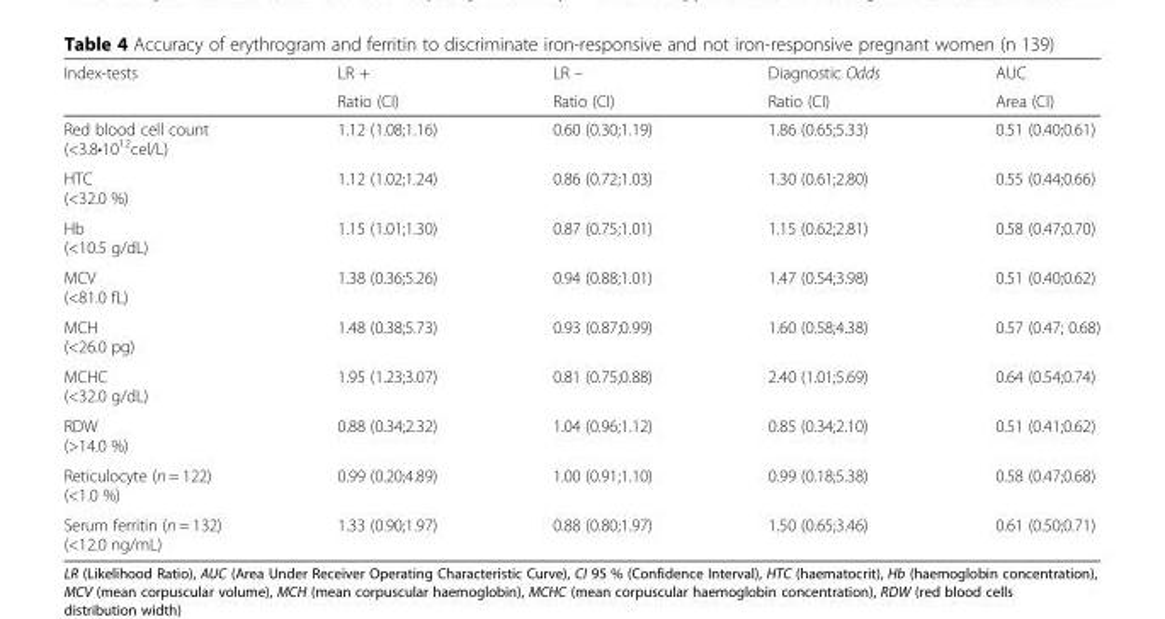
<table><thead><tr><td rowspan="2">Index-tests</td><td rowspan="2">LR + Ratio (CI)</td><td rowspan="2">LR – Ratio (CI)</td><td rowspan="2">Diagnostic Odds Ratio (CI)</td><td rowspan="2">AUC Area (CI)</td></tr><tr></tr></thead><tbody><tr><td>Red blood cell count (&lt;3.8•10<sup>12</sup>cel/L)</td><td>1.12 (1.08;1.16)</td><td>0.60 (0.30;1.19)</td><td>1.86 (0.65;5.33)</td><td>0.51 (0.40;0.61)</td></tr><tr><td>HTC (&lt;32.0 %)</td><td>1.12 (1.02;1.24)</td><td>0.86 (0.72;1.03)</td><td>1.30 (0.61;2.80)</td><td>0.55 (0.44;0.66)</td></tr><tr><td>Hb (&lt;10.5 g/dL)</td><td>1.15 (1.01;1.30)</td><td>0.87 (0.75;1.01)</td><td>1.15 (0.62;2.81)</td><td>0.58 (0.47;0.70)</td></tr><tr><td>MCV (&lt;81.0 fL)</td><td>1.38 (0.36;5.26)</td><td>0.94 (0.88;1.01)</td><td>1.47 (0.54;3.98)</td><td>0.51 (0.40;0.62)</td></tr><tr><td>MCH (&lt;26.0 pg)</td><td>1.48 (0.38;5.73)</td><td>0.93 (0.87;0.99)</td><td>1.60 (0.58;4.38)</td><td>0.57 (0.47; 0.68)</td></tr><tr><td>MCHC (&lt;32.0 g/dL)</td><td>1.95 (1.23;3.07)</td><td>0.81 (0.75;0.88)</td><td>2.40 (1.01;5.69)</td><td>0.64 (0.54;0.74)</td></tr><tr><td>RDW (&gt;14.0 %)</td><td>0.88 (0.34;2.32)</td><td>1.04 (0.96;1.12)</td><td>0.85 (0.34;2.10)</td><td>0.51 (0.41;0.62)</td></tr><tr><td>Reticulocyte (n = 122) (&lt;1.0 %)</td><td>0.99 (0.20;4.89)</td><td>1.00 (0.91;1.10)</td><td>0.99 (0.18;5.38)</td><td>0.58 (0.47;0.68)</td></tr><tr><td>Serum ferritin (n = 132) (&lt;12.0 ng/mL)</td><td>1.33 (0.90;1.97)</td><td>0.88 (0.80;1.97)</td><td>1.50 (0.65;3.46)</td><td>0.61 (0.50;0.71)</td></tr></tbody></table>